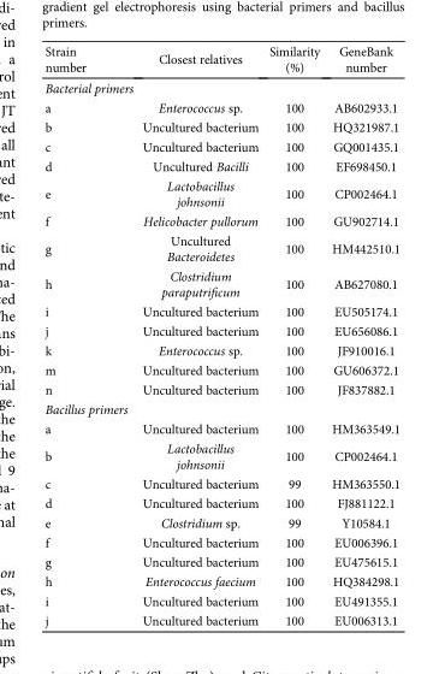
<table><thead><tr><td>Strain number</td><td>Closest relatives</td><td>Similarity (%)</td><td>GeneBank number</td></tr></thead><tbody><tr><td colspan="4">Bacterial primers</td></tr><tr><td>a</td><td>Enterococcus sp.</td><td>100</td><td>AB602933.1</td></tr><tr><td>b</td><td>Uncultured bacterium</td><td>100</td><td>HQ321987.1</td></tr><tr><td>c</td><td>Uncultured bacterium</td><td>100</td><td>GQ001435.1</td></tr><tr><td>d</td><td>Uncultured Bacilli</td><td>100</td><td>EF698450.1</td></tr><tr><td>e</td><td>Lactobacillus johnsonii</td><td>100</td><td>CP002464.1</td></tr><tr><td>f</td><td>Helicobacter pullorum</td><td>100</td><td>GU902714.1</td></tr><tr><td>g</td><td>Uncultured Bacteroidetes</td><td>100</td><td>HM442510.1</td></tr><tr><td>h</td><td>Clostridium paraputrificum</td><td>100</td><td>AB627080.1</td></tr><tr><td>i</td><td>Uncultured bacterium</td><td>100</td><td>EU505174.1</td></tr><tr><td>j</td><td>Uncultured bacterium</td><td>100</td><td>EU656086.1</td></tr><tr><td>k</td><td>Enterococcus sp.</td><td>100</td><td>JF910016.1</td></tr><tr><td>m</td><td>Uncultured bacterium</td><td>100</td><td>GU606372.1</td></tr><tr><td>n</td><td>Uncultured bacterium</td><td>100</td><td>JF837882.1</td></tr><tr><td colspan="4">Bacillus primers</td></tr><tr><td>a</td><td>Uncultured bacterium</td><td>100</td><td>HM363549.1</td></tr><tr><td>b</td><td>Lactobacillus johnsonii</td><td>100</td><td>CP002464.1</td></tr><tr><td>c</td><td>Uncultured bacterium</td><td>99</td><td>HM363550.1</td></tr><tr><td>d</td><td>Uncultured bacterium</td><td>100</td><td>FJ881122.1</td></tr><tr><td>e</td><td>Clostridium sp.</td><td>99</td><td>Y10584.1</td></tr><tr><td>f</td><td>Uncultured bacterium</td><td>100</td><td>EU006396.1</td></tr><tr><td>g</td><td>Uncultured bacterium</td><td>100</td><td>EU475615.1</td></tr><tr><td>h</td><td>Enterococcus faecium</td><td>100</td><td>HQ384298.1</td></tr><tr><td>i</td><td>Uncultured bacterium</td><td>100</td><td>EU491355.1</td></tr><tr><td>j</td><td>Uncultured bacterium</td><td>100</td><td>EU006313.1</td></tr></tbody></table>